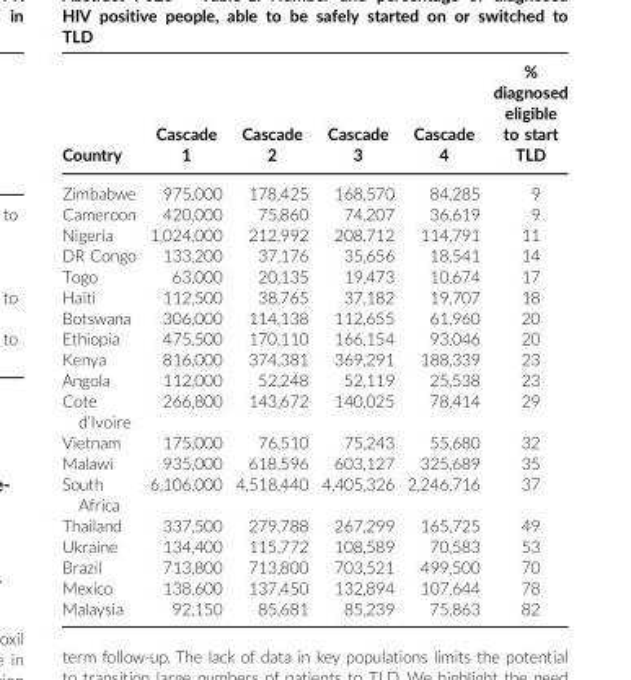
<table><thead><tr><td>Country</td><td>Cascade 1</td><td>Cascade 2</td><td>Cascade 3</td><td>Cascade 4</td><td>% diagnosed eligible to start TLD</td></tr></thead><tbody><tr><td>Zimbabwe</td><td>975,000</td><td>178,425</td><td>168,570</td><td>84,285</td><td>9</td></tr><tr><td>Cameroon</td><td>420,000</td><td>75,860</td><td>74,207</td><td>36,619</td><td>9</td></tr><tr><td>Nigeria</td><td>1,024,000</td><td>212,992</td><td>208,712</td><td>114,791</td><td>11</td></tr><tr><td>DR Congo</td><td>133,200</td><td>37,176</td><td>35,656</td><td>18,541</td><td>14</td></tr><tr><td>Togo</td><td>63,000</td><td>20,135</td><td>19,473</td><td>10,674</td><td>17</td></tr><tr><td>Haiti</td><td>112,500</td><td>38,765</td><td>37,182</td><td>19,707</td><td>18</td></tr><tr><td>Botswana</td><td>306,000</td><td>114,138</td><td>112,655</td><td>61,960</td><td>20</td></tr><tr><td>Ethiopia</td><td>475,500</td><td>170,110</td><td>166,154</td><td>93,046</td><td>20</td></tr><tr><td>Kenya</td><td>816,000</td><td>374,381</td><td>369,291</td><td>188,339</td><td>23</td></tr><tr><td>Angola</td><td>112,000</td><td>52,248</td><td>52,119</td><td>25,538</td><td>23</td></tr><tr><td>Cote d’Ivoire</td><td>266,800</td><td>143,672</td><td>140,025</td><td>78,414</td><td>29</td></tr><tr><td>Vietnam</td><td>175,000</td><td>76,510</td><td>75,243</td><td>55,680</td><td>32</td></tr><tr><td>Malawi</td><td>935,000</td><td>618,596</td><td>603,127</td><td>325,689</td><td>35</td></tr><tr><td>South Africa</td><td>6,106,000</td><td>4,518,440</td><td>4,405,326</td><td>2,246,716</td><td>37</td></tr><tr><td>Thailand</td><td>337,500</td><td>279,788</td><td>267,299</td><td>165,725</td><td>49</td></tr><tr><td>Ukraine</td><td>134,400</td><td>115,772</td><td>108,589</td><td>70,583</td><td>53</td></tr><tr><td>Brazil</td><td>713,800</td><td>713,800</td><td>703,521</td><td>499,500</td><td>70</td></tr><tr><td>Mexico</td><td>138,600</td><td>137,450</td><td>132,894</td><td>107,644</td><td>78</td></tr><tr><td>Malaysia</td><td>92,150</td><td>85,681</td><td>85,239</td><td>75,863</td><td>82</td></tr></tbody></table>